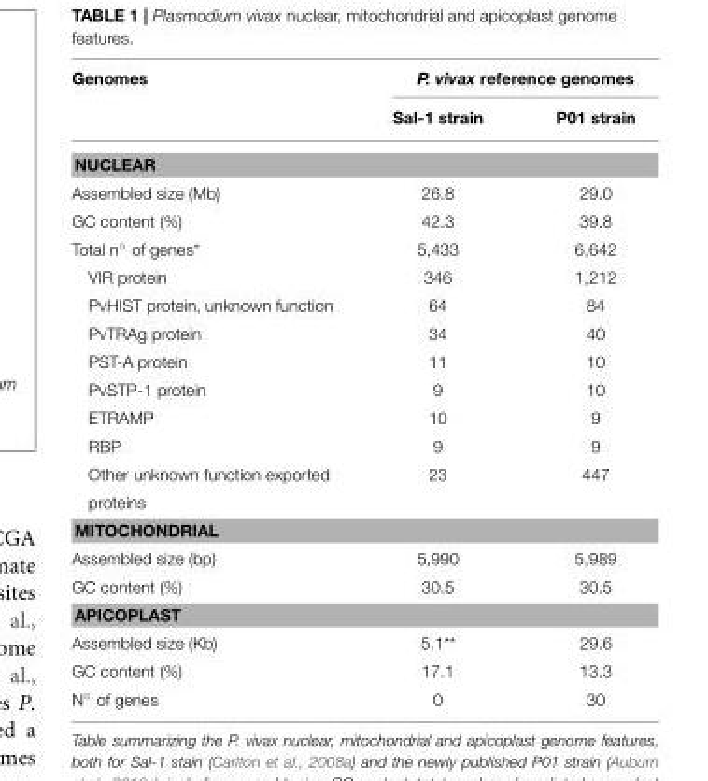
<table><thead><tr><td rowspan="2">Genomes</td><td colspan="2">P. vivax reference genomes</td></tr><tr><td>Sal-1 strain</td><td>P01 strain</td></tr></thead><tbody><tr><td colspan="3">NUCLEAR</td></tr><tr><td>Assembled size (Mb)</td><td>26.8</td><td>29.0</td></tr><tr><td>GC content (%)</td><td>42.3</td><td>39.8</td></tr><tr><td>Total n◦ of genes*</td><td>5,433</td><td>6,642</td></tr><tr><td>VIR protein</td><td>346</td><td>1,212</td></tr><tr><td>PvHIST protein, unknown function</td><td>64</td><td>84</td></tr><tr><td>PvTRAg protein</td><td>34</td><td>40</td></tr><tr><td>PST-A protein</td><td>11</td><td>10</td></tr><tr><td>PvSTP-1 protein</td><td>9</td><td>10</td></tr><tr><td>ETRAMP</td><td>10</td><td>9</td></tr><tr><td>RBP</td><td>9</td><td>9</td></tr><tr><td>Other unknown function exported proteins</td><td>23</td><td>447</td></tr><tr><td colspan="3">MITOCHONDRIAL</td></tr><tr><td>Assembled size (bp)</td><td>5,990</td><td>5,989</td></tr><tr><td>GC content (%)</td><td>30.5</td><td>30.5</td></tr><tr><td colspan="3">APICOPLAST</td></tr><tr><td>Assembled size (Kb)</td><td>5.1**</td><td>29.6</td></tr><tr><td>GC content (%)</td><td>17.1</td><td>13.3</td></tr><tr><td>N◦ of genes</td><td>0</td><td>30</td></tr></tbody></table>